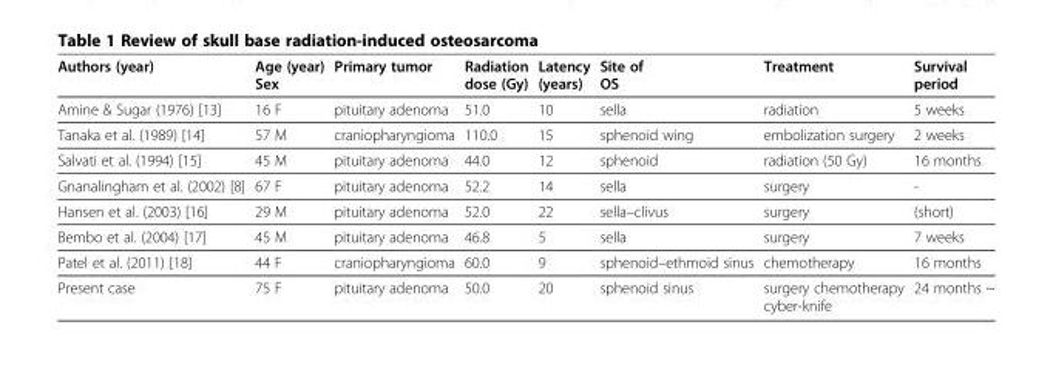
<table><thead><tr><td>Authors (year)</td><td>Age (year) Sex</td><td>Primary tumor</td><td>Radiation dose (Gy)</td><td>Latency (years)</td><td>Site of OS</td><td>Treatment</td><td>Survival period</td></tr></thead><tbody><tr><td>Amine &amp; Sugar (1976) [13]</td><td>16 F</td><td>pituitary adenoma</td><td>51.0</td><td>10</td><td>sella</td><td>radiation</td><td>5 weeks</td></tr><tr><td>Tanaka et al. (1989) [14]</td><td>57 M</td><td>craniopharyngioma</td><td>110.0</td><td>15</td><td>sphenoid wing</td><td>embolization surgery</td><td>2 weeks</td></tr><tr><td>Salvati et al. (1994) [15]</td><td>45 M</td><td>pituitary adenoma</td><td>44.0</td><td>12</td><td>sphenoid</td><td>radiation (50 Gy)</td><td>16 months</td></tr><tr><td>Gnanalingham et al. (2002) [8]</td><td>67 F</td><td>pituitary adenoma</td><td>52.2</td><td>14</td><td>sella</td><td>surgery</td><td>-</td></tr><tr><td>Hansen et al. (2003) [16]</td><td>29 M</td><td>pituitary adenoma</td><td>52.0</td><td>22</td><td>sella–clivus</td><td>surgery</td><td>(short)</td></tr><tr><td>Bembo et al. (2004) [17]</td><td>45 M</td><td>pituitary adenoma</td><td>46.8</td><td>5</td><td>sella</td><td>surgery</td><td>7 weeks</td></tr><tr><td>Patel et al. (2011) [18]</td><td>44 F</td><td>craniopharyngioma</td><td>60.0</td><td>9</td><td>sphenoid–ethmoid sinus</td><td>chemotherapy</td><td>16 months</td></tr><tr><td>Present case</td><td>75 F</td><td>pituitary adenoma</td><td>50.0</td><td>20</td><td>sphenoid sinus</td><td>surgery chemotherapy cyber-knife</td><td>24 months ~</td></tr></tbody></table>